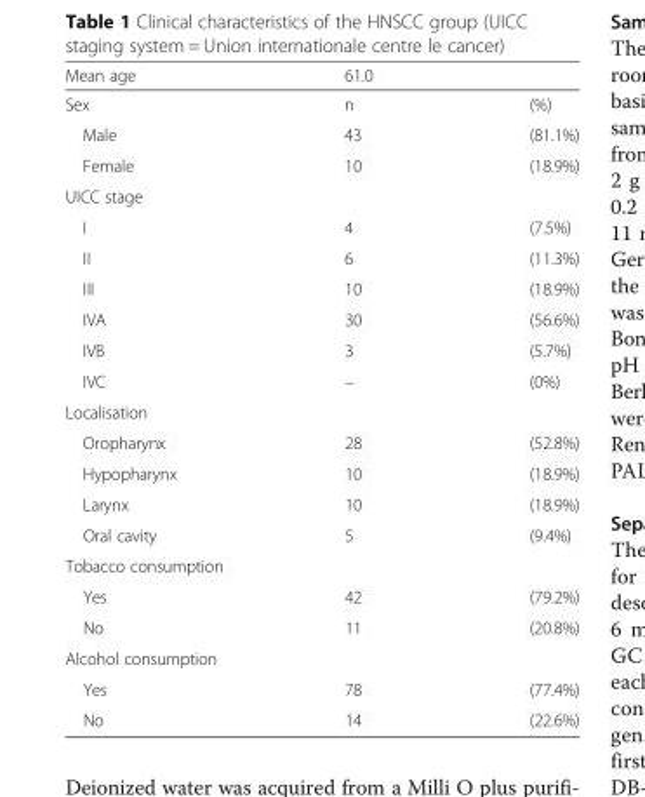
<table><thead><tr><td rowspan="2">Mean age Sex</td><td colspan="2">61.0</td></tr><tr><td>n</td><td>(%)</td></tr></thead><tbody><tr><td>Male</td><td>43</td><td>(81.1%)</td></tr><tr><td>Female</td><td>10</td><td>(18.9%)</td></tr><tr><td colspan="3">UICC stage</td></tr><tr><td>I</td><td>4</td><td>(7.5%)</td></tr><tr><td>II</td><td>6</td><td>(11.3%)</td></tr><tr><td>III</td><td>10</td><td>(18.9%)</td></tr><tr><td>IVA</td><td>30</td><td>(56.6%)</td></tr><tr><td>IVB</td><td>3</td><td>(5.7%)</td></tr><tr><td>IVC</td><td>–</td><td>(0%)</td></tr><tr><td colspan="3">Localisation</td></tr><tr><td>Oropharynx</td><td>28</td><td>(52.8%)</td></tr><tr><td>Hypopharynx</td><td>10</td><td>(18.9%)</td></tr><tr><td>Larynx</td><td>10</td><td>(18.9%)</td></tr><tr><td>Oral cavity</td><td>5</td><td>(9.4%)</td></tr><tr><td colspan="3">Tobacco consumption</td></tr><tr><td>Yes</td><td>42</td><td>(79.2%)</td></tr><tr><td>No</td><td>11</td><td>(20.8%)</td></tr><tr><td colspan="3">Alcohol consumption</td></tr><tr><td>Yes</td><td>78</td><td>(77.4%)</td></tr><tr><td>No</td><td>14</td><td>(22.6%)</td></tr></tbody></table>